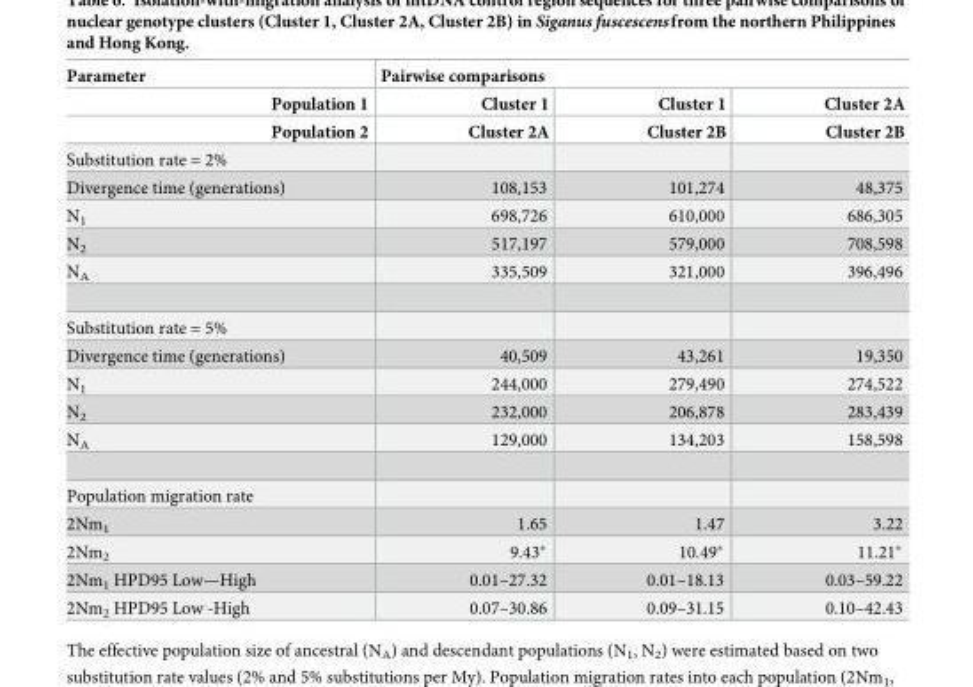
<table><thead><tr><td rowspan="3">Parameter Population 1 Population 2</td><td colspan="3">Pairwise comparisons</td></tr><tr><td rowspan="2">Cluster 1 Cluster 2A</td><td rowspan="2">Cluster 1 Cluster 2B</td><td rowspan="2">Cluster 2A Cluster 2B</td></tr><tr></tr></thead><tbody><tr><td colspan="4">Substitution rate = 2%</td></tr><tr><td>Divergence time (generations)</td><td>108,153</td><td>101,274</td><td>48,375</td></tr><tr><td>N<sub>1</sub></td><td>698,726</td><td>610,000</td><td>686,305</td></tr><tr><td>N<sub>2</sub></td><td>517,197</td><td>579,000</td><td>708,598</td></tr><tr><td>N<sub>A</sub></td><td>335,509</td><td>321,000</td><td>396,496</td></tr><tr><td colspan="4">Substitution rate = 5%</td></tr><tr><td>Divergence time (generations)</td><td>40,509</td><td>43,261</td><td>19,350</td></tr><tr><td>N<sub>1</sub></td><td>244,000</td><td>279,490</td><td>274,522</td></tr><tr><td>N<sub>2</sub></td><td>232,000</td><td>206,878</td><td>283,439</td></tr><tr><td>N<sub>A</sub></td><td>129,000</td><td>134,203</td><td>158,598</td></tr><tr><td colspan="4">Population migration rate</td></tr><tr><td>2Nm<sub>1</sub></td><td>1.65</td><td>1.47</td><td>3.22</td></tr><tr><td>2Nm<sub>2</sub></td><td>9.43*</td><td>10.49*</td><td>11.21*</td></tr><tr><td>2Nm<sub>1</sub> HPD95 Low—High</td><td>0.01–27.32</td><td>0.01–18.13</td><td>0.03–59.22</td></tr><tr><td>2Nm<sub>2</sub> HPD95 Low -High</td><td>0.07–30.86</td><td>0.09–31.15</td><td>0.10–42.43</td></tr></tbody></table>